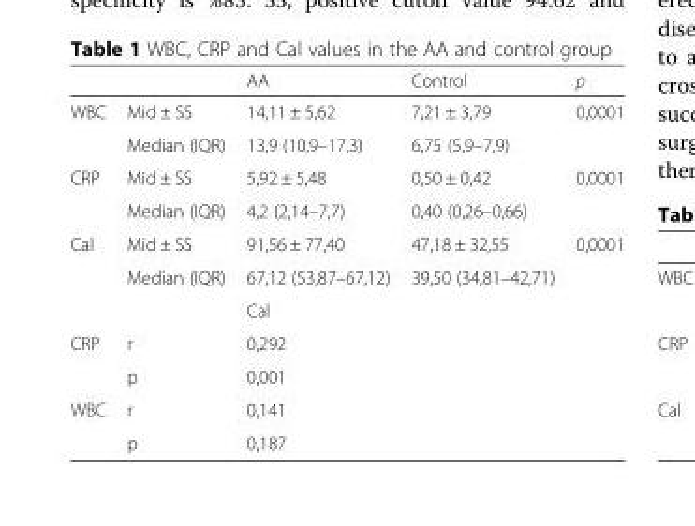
<table><thead><tr><td></td><td></td><td>AA</td><td>Control</td><td>p</td></tr></thead><tbody><tr><td rowspan="2">WBC</td><td>Mid ± SS</td><td>14,11 ± 5,62</td><td>7,21 ± 3,79</td><td rowspan="2">0,0001</td></tr><tr><td>Median (IQR)</td><td>13,9 (10,9–17,3)</td><td>6,75 (5,9–7,9)</td></tr><tr><td rowspan="2">CRP</td><td>Mid ± SS</td><td>5,92 ± 5,48</td><td>0,50 ± 0,42</td><td rowspan="2">0,0001</td></tr><tr><td>Median (IQR)</td><td>4,2 (2,14–7,7)</td><td>0,40 (0,26–0,66)</td></tr><tr><td rowspan="3">Cal</td><td>Mid ± SS</td><td>91,56 ± 77,40</td><td>47,18 ± 32,55</td><td rowspan="2">0,0001</td></tr><tr><td>Median (IQR)</td><td>67,12 (53,87–67,12)</td><td>39,50 (34,81–42,71)</td></tr><tr><td></td><td>Cal</td><td rowspan="5" colspan="2"></td></tr><tr><td rowspan="2">CRP</td><td>r</td><td>0,292</td></tr><tr><td>p</td><td>0,001</td></tr><tr><td rowspan="2">WBC</td><td>r</td><td>0,141</td></tr><tr><td>p</td><td>0,187</td></tr></tbody></table>